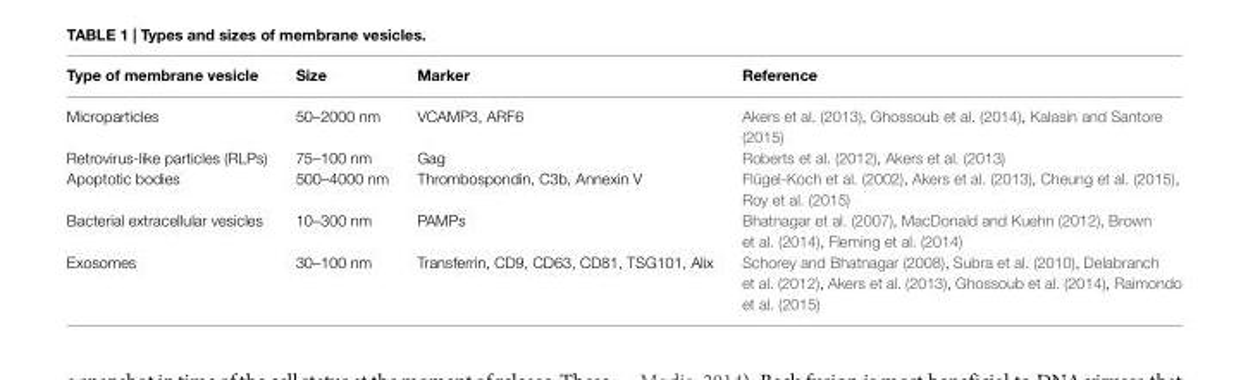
<table><thead><tr><td>Type of membrane vesicle</td><td>Size</td><td>Marker</td><td>Reference</td></tr></thead><tbody><tr><td>Microparticles</td><td>50–2000 nm</td><td>VCAMP3, ARF6</td><td>Akers et al. (2013), Ghossoub et al. (2014), Kalasin and Santore (2015)</td></tr><tr><td>Retrovirus-like particles (RLPs)</td><td>75–100 nm</td><td>Gag</td><td>Roberts et al. (2012), Akers et al. (2013)</td></tr><tr><td>Apoptotic bodies</td><td>500–4000 nm</td><td>Thrombospondin, C3b, Annexin V</td><td>Flügel-Koch et al. (2002), Akers et al. (2013), Cheung et al. (2015), Roy et al. (2015)</td></tr><tr><td>Bacterial extracellular vesicles</td><td>10–300 nm</td><td>PAMPs</td><td>Bhatnagar et al. (2007), MacDonald and Kuehn (2012), Brown et al. (2014), Fleming et al. (2014)</td></tr><tr><td>Exosomes</td><td>30–100 nm</td><td>Transferrin, CD9, CD63, CD81, TSG101, Alix</td><td>Schorey and Bhatnagar (2008), Subra et al. (2010), Delabranch et al. (2012), Akers et al. (2013), Ghossoub et al. (2014), Raimondo et al. (2015)</td></tr></tbody></table>